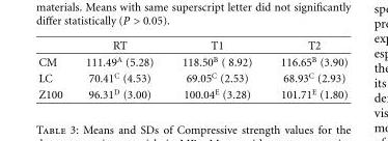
<table><thead><tr><td></td><td>RT</td><td>T1</td><td>T2</td></tr></thead><tbody><tr><td>CM</td><td>111.49<sup>A</sup> (5.28)</td><td>118.50<sup>B</sup> ( 8.92)</td><td>116.65<sup>B</sup> (3.90)</td></tr><tr><td>LC</td><td>70.41<sup>C</sup> (4.53)</td><td>69.05<sup>C</sup> (2.53)</td><td>68.93<sup>C</sup> (2.93)</td></tr><tr><td>Z100</td><td>96.31<sup>D</sup> (3.00)</td><td>100.04<sup>E</sup> (3.28)</td><td>101.71<sup>E</sup> (1.80)</td></tr></tbody></table>